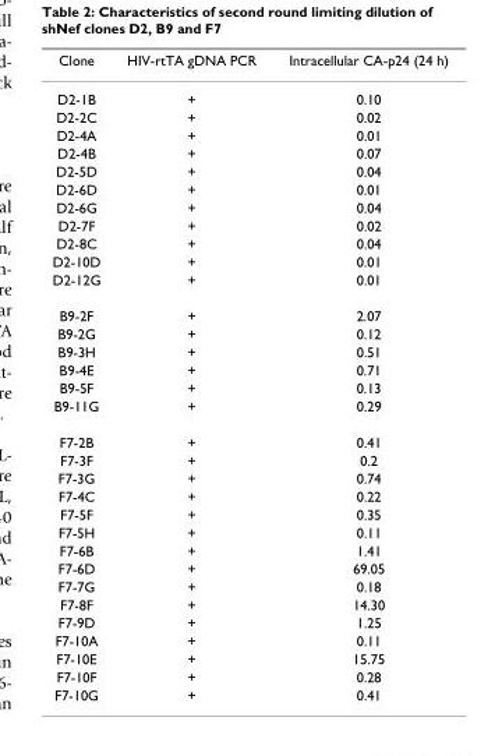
<table><thead><tr><td>Clone</td><td>HIV-rtTA gDNA PCR</td><td>Intracellular CA-p24 (24 h)</td></tr></thead><tbody><tr><td>D2-1B</td><td>+</td><td>0.10</td></tr><tr><td>D2-2C</td><td>+</td><td>0.02</td></tr><tr><td>D2-4A</td><td>+</td><td>0.01</td></tr><tr><td>D2-4B</td><td>+</td><td>0.07</td></tr><tr><td>D2-5D</td><td>+</td><td>0.04</td></tr><tr><td>D2-6D</td><td>+</td><td>0.01</td></tr><tr><td>D2-6G</td><td>+</td><td>0.04</td></tr><tr><td>D2-7F</td><td>+</td><td>0.02</td></tr><tr><td>D2-8C</td><td>+</td><td>0.04</td></tr><tr><td>D2-10D</td><td>+</td><td>0.01</td></tr><tr><td>D2-12G</td><td>+</td><td>0.01</td></tr><tr><td>B9-2F</td><td>+</td><td>2.07</td></tr><tr><td>B9-2G</td><td>+</td><td>0.12</td></tr><tr><td>B9-3H</td><td>+</td><td>0.51</td></tr><tr><td>B9-4E</td><td>+</td><td>0.71</td></tr><tr><td>B9-5F</td><td>+</td><td>0.13</td></tr><tr><td>B9-11G</td><td>+</td><td>0.29</td></tr><tr><td>F7-2B</td><td>+</td><td>0.41</td></tr><tr><td>F7-3F</td><td>+</td><td>0.2</td></tr><tr><td>F7-3G</td><td>+</td><td>0.74</td></tr><tr><td>F7-4C</td><td>+</td><td>0.22</td></tr><tr><td>F7-5F</td><td>+</td><td>0.35</td></tr><tr><td>F7-5H</td><td>+</td><td>0.11</td></tr><tr><td>F7-6B</td><td>+</td><td>1.41</td></tr><tr><td>F7-6D</td><td>+</td><td>69.05</td></tr><tr><td>F7-7G</td><td>+</td><td>0.18</td></tr><tr><td>F7-8F</td><td>+</td><td>14.30</td></tr><tr><td>F7-9D</td><td>+</td><td>1.25</td></tr><tr><td>F7-10A</td><td>+</td><td>0.11</td></tr><tr><td>F7-10E</td><td>+</td><td>15.75</td></tr><tr><td>F7-10F</td><td>+</td><td>0.28</td></tr><tr><td>F7-10G</td><td>+</td><td>0.41</td></tr></tbody></table>